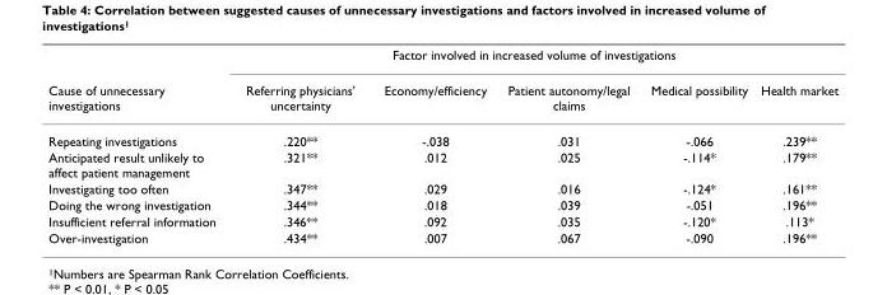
<table><thead><tr><td rowspan="2">Cause of unnecessary investigations</td><td colspan="5">Factor involved in increased volume of investigations</td></tr><tr><td>Referring physicians&#x27; uncertainty</td><td>Economy/efficiency</td><td>Patient autonomy/legal claims</td><td>Medical possibility</td><td>Health market</td></tr></thead><tbody><tr><td>Repeating investigations</td><td>.220**</td><td>-.038</td><td>.031</td><td>-.066</td><td>.239**</td></tr><tr><td>Anticipated result unlikely to affect patient management</td><td>.321**</td><td>.012</td><td>.025</td><td>-.114*</td><td>.179**</td></tr><tr><td>Investigating too often</td><td>.347**</td><td>.029</td><td>.016</td><td>-.124*</td><td>.161**</td></tr><tr><td>Doing the wrong investigation</td><td>.344**</td><td>.018</td><td>.039</td><td>-.051</td><td>.196**</td></tr><tr><td>Insufficient referral information</td><td>.346**</td><td>.092</td><td>.035</td><td>-.120*</td><td>.113*</td></tr><tr><td>Over-investigation</td><td>.434**</td><td>.007</td><td>.067</td><td>-.090</td><td>.196**</td></tr></tbody></table>